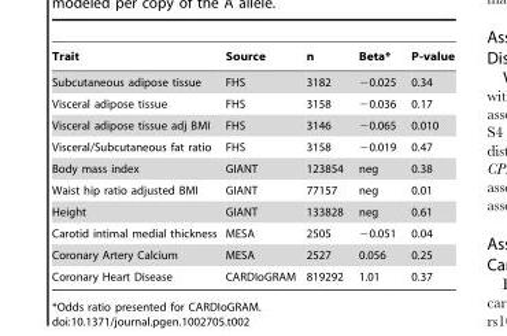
<table><thead><tr><td>Trait</td><td>Source</td><td>n</td><td>Beta*</td><td>P-value</td></tr></thead><tbody><tr><td>Subcutaneous adipose tissue</td><td>FHS</td><td>3182</td><td>−0.025</td><td>0.34</td></tr><tr><td>Visceral adipose tissue</td><td>FHS</td><td>3158</td><td>−0.036</td><td>0.17</td></tr><tr><td>Visceral adipose tissue adj BMI</td><td>FHS</td><td>3146</td><td>−0.065</td><td>0.010</td></tr><tr><td>Visceral/Subcutaneous fat ratio</td><td>FHS</td><td>3158</td><td>−0.019</td><td>0.47</td></tr><tr><td>Body mass index</td><td>GIANT</td><td>123854</td><td>neg</td><td>0.38</td></tr><tr><td>Waist hip ratio adjusted BMI</td><td>GIANT</td><td>77157</td><td>neg</td><td>0.01</td></tr><tr><td>Height</td><td>GIANT</td><td>133828</td><td>neg</td><td>0.61</td></tr><tr><td>Carotid intimal medial thickness</td><td>MESA</td><td>2505</td><td>−0.051</td><td>0.04</td></tr><tr><td>Coronary Artery Calcium</td><td>MESA</td><td>2527</td><td>0.056</td><td>0.25</td></tr><tr><td>Coronary Heart Disease</td><td>CARDIoGRAM</td><td>819292</td><td>1.01</td><td>0.37</td></tr></tbody></table>